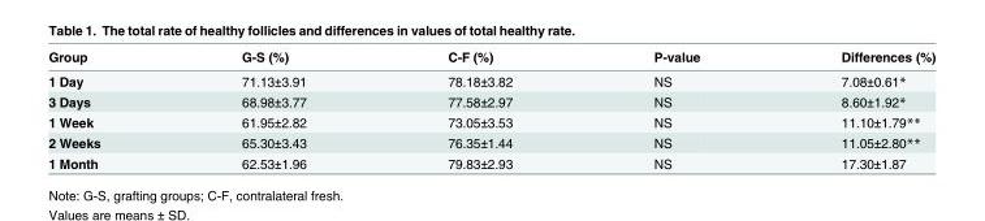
<table><thead><tr><td>Group</td><td>G-S (%)</td><td>C-F (%)</td><td>P-value</td><td>Differences (%)</td></tr></thead><tbody><tr><td>1 Day</td><td>71.13±3.91</td><td>78.18±3.82</td><td>NS</td><td>7.08±0.61*</td></tr><tr><td>3 Days</td><td>68.98±3.77</td><td>77.58±2.97</td><td>NS</td><td>8.60±1.92*</td></tr><tr><td>1 Week</td><td>61.95±2.82</td><td>73.05±3.53</td><td>NS</td><td>11.10±1.79**</td></tr><tr><td>2 Weeks</td><td>65.30±3.43</td><td>76.35±1.44</td><td>NS</td><td>11.05±2.80**</td></tr><tr><td>1 Month</td><td>62.53±1.96</td><td>79.83±2.93</td><td>NS</td><td>17.30±1.87</td></tr></tbody></table>